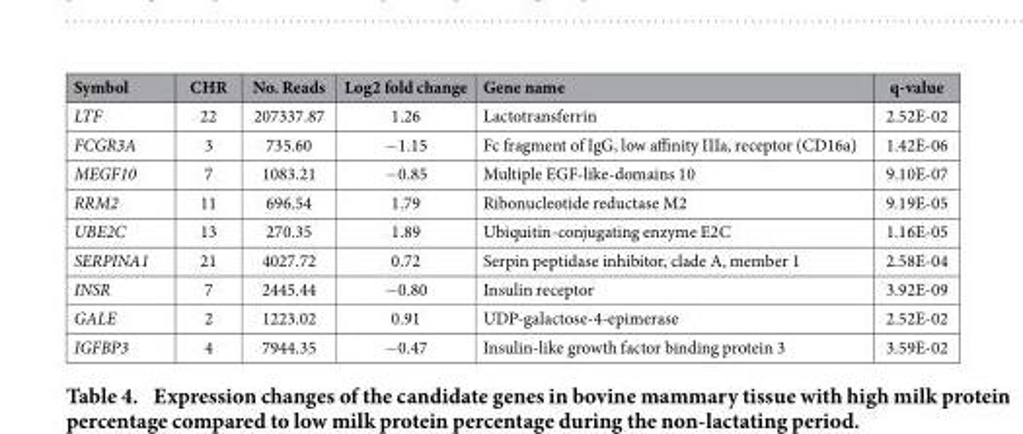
<table><thead><tr><td>Symbol</td><td>CHR</td><td>No. Reads</td><td>Log2 fold change</td><td>Gene name</td><td>q-value</td></tr></thead><tbody><tr><td>LTF</td><td>22</td><td>207337.87</td><td>1.26</td><td>Lactotransferrin</td><td>2.52E-02</td></tr><tr><td>FCGR3A</td><td>3</td><td>735.60</td><td>− 1.15</td><td>Fc fragment of IgG, low affinity IIIa, receptor (CD16a)</td><td>1.42E-06</td></tr><tr><td>MEGF10</td><td>7</td><td>1083.21</td><td>− 0.85</td><td>Multiple EGF-like-domains 10</td><td>9.10E-07</td></tr><tr><td>RRM2</td><td>11</td><td>696.54</td><td>1.79</td><td>Ribonucleotide reductase M2</td><td>9.19E-05</td></tr><tr><td>UBE2C</td><td>13</td><td>270.35</td><td>1.89</td><td>Ubiquitin-conjugating enzyme E2C</td><td>1.16E-05</td></tr><tr><td>SERPINA1</td><td>21</td><td>4027.72</td><td>0.72</td><td>Serpin peptidase inhibitor, clade A, member 1</td><td>2.58E-04</td></tr><tr><td>INSR</td><td>7</td><td>2445.44</td><td>− 0.80</td><td>Insulin receptor</td><td>3.92E-09</td></tr><tr><td>GALE</td><td>2</td><td>1223.02</td><td>0.91</td><td>UDP-galactose-4-epimerase</td><td>2.52E-02</td></tr><tr><td>IGFBP3</td><td>4</td><td>7944.35</td><td>− 0.47</td><td>Insulin-like growth factor binding protein 3</td><td>3.59E-02</td></tr></tbody></table>